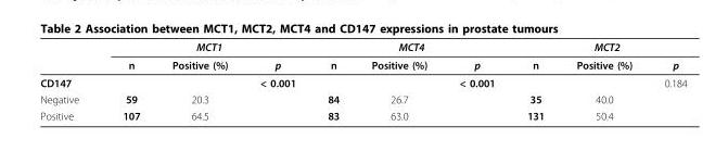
<table><thead><tr><td rowspan="2"></td><td colspan="3">MCT1</td><td colspan="3">MCT4</td><td colspan="3">MCT2</td></tr><tr><td>n</td><td>Positive (%)</td><td>p</td><td>n</td><td>Positive (%)</td><td>p</td><td>n</td><td>Positive (%)</td><td>p</td></tr></thead><tbody><tr><td>CD147</td><td></td><td></td><td>&lt; 0.001</td><td></td><td></td><td>&lt; 0.001</td><td></td><td></td><td>0.184</td></tr><tr><td>Negative</td><td>59</td><td>20.3</td><td></td><td>84</td><td>26.7</td><td></td><td>35</td><td>40.0</td><td></td></tr><tr><td>Positive</td><td>107</td><td>64.5</td><td></td><td>83</td><td>63.0</td><td></td><td>131</td><td>50.4</td><td></td></tr></tbody></table>